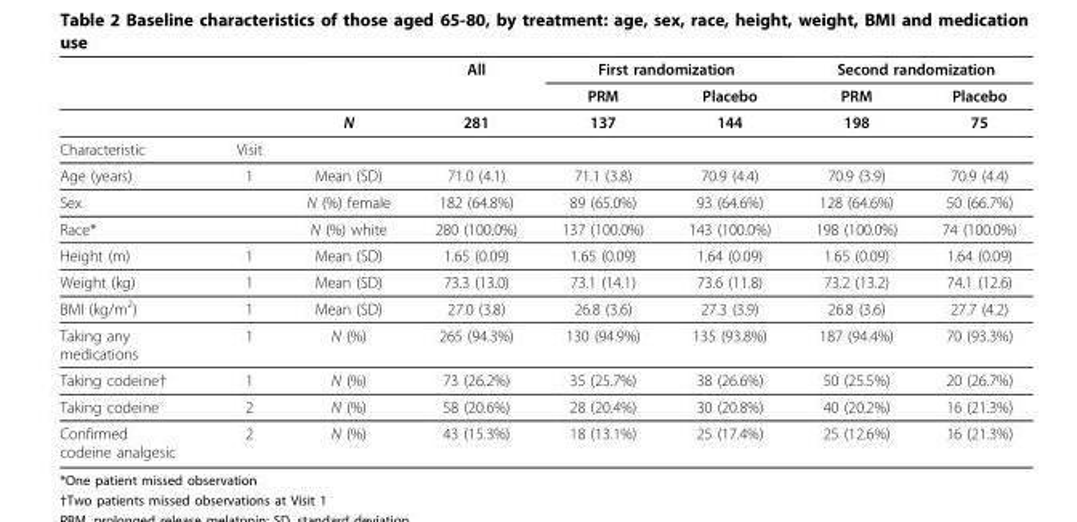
<table><thead><tr><td rowspan="2"></td><td rowspan="2"></td><td rowspan="2"></td><td rowspan="2">All</td><td colspan="2">First randomization</td><td colspan="2">Second randomization</td></tr><tr><td>PRM</td><td>Placebo</td><td>PRM</td><td>Placebo</td></tr></thead><tbody><tr><td></td><td></td><td>N</td><td>281</td><td>137</td><td>144</td><td>198</td><td>75</td></tr><tr><td>Characteristic</td><td>Visit</td><td></td><td></td><td></td><td></td><td></td><td></td></tr><tr><td>Age (years)</td><td>1</td><td>Mean (SD)</td><td>71.0 (4.1)</td><td>71.1 (3.8)</td><td>70.9 (4.4)</td><td>70.9 (3.9)</td><td>70.9 (4.4)</td></tr><tr><td>Sex</td><td></td><td>N (%) female</td><td>182 (64.8%)</td><td>89 (65.0%)</td><td>93 (64.6%)</td><td>128 (64.6%)</td><td>50 (66.7%)</td></tr><tr><td>Race*</td><td></td><td>N (%) white</td><td>280 (100.0%)</td><td>137 (100.0%)</td><td>143 (100.0%)</td><td>198 (100.0%)</td><td>74 (100.0%)</td></tr><tr><td>Height (m)</td><td>1</td><td>Mean (SD)</td><td>1.65 (0.09)</td><td>1.65 (0.09)</td><td>1.64 (0.09)</td><td>1.65 (0.09)</td><td>1.64 (0.09)</td></tr><tr><td>Weight (kg)</td><td>1</td><td>Mean (SD)</td><td>73.3 (13.0)</td><td>73.1 (14.1)</td><td>73.6 (11.8)</td><td>73.2 (13.2)</td><td>74.1 (12.6)</td></tr><tr><td>BMI (kg/m<sup>2</sup>)</td><td>1</td><td>Mean (SD)</td><td>27.0 (3.8)</td><td>26.8 (3.6)</td><td>27.3 (3.9)</td><td>26.8 (3.6)</td><td>27.7 (4.2)</td></tr><tr><td>Taking any medications</td><td>1</td><td>N (%)</td><td>265 (94.3%)</td><td>130 (94.9%)</td><td>135 (93.8%)</td><td>187 (94.4%)</td><td>70 (93.3%)</td></tr><tr><td>Taking codeine†</td><td>1</td><td>N (%)</td><td>73 (26.2%)</td><td>35 (25.7%)</td><td>38 (26.6%)</td><td>50 (25.5%)</td><td>20 (26.7%)</td></tr><tr><td>Taking codeine</td><td>2</td><td>N (%)</td><td>58 (20.6%)</td><td>28 (20.4%)</td><td>30 (20.8%)</td><td>40 (20.2%)</td><td>16 (21.3%)</td></tr><tr><td>Confirmed codeine analgesic</td><td>2</td><td>N (%)</td><td>43 (15.3%)</td><td>18 (13.1%)</td><td>25 (17.4%)</td><td>25 (12.6%)</td><td>16 (21.3%)</td></tr></tbody></table>